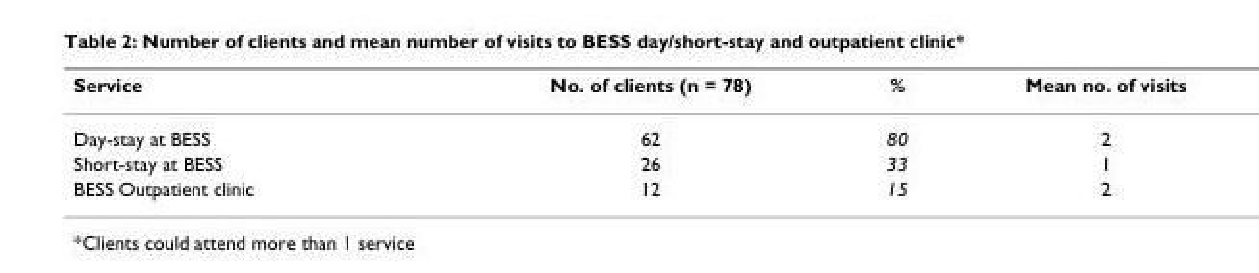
<table><thead><tr><td>Service</td><td>No. of clients (n = 78)</td><td>%</td><td>Mean no. of visits</td></tr></thead><tbody><tr><td>Day-stay at BESS</td><td>62</td><td>80</td><td>2</td></tr><tr><td>Short-stay at BESS</td><td>26</td><td>33</td><td>1</td></tr><tr><td>BESS Outpatient clinic</td><td>12</td><td>15</td><td>2</td></tr></tbody></table>